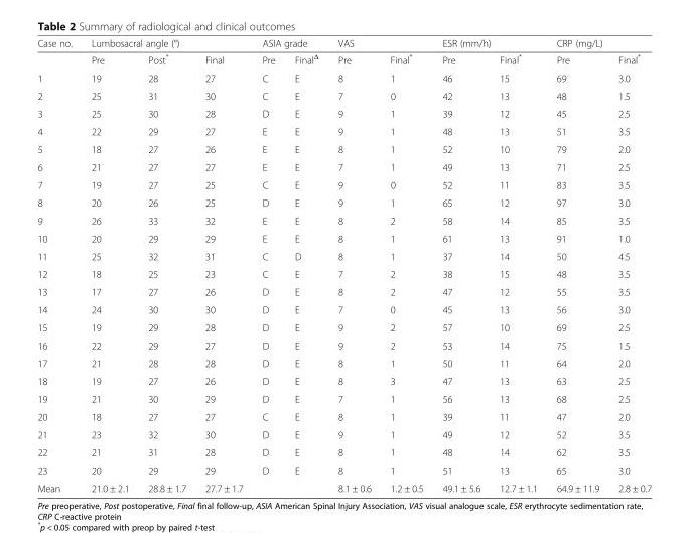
<table><thead><tr><td rowspan="2">Case no.</td><td colspan="3">Lumbosacral angle (°)</td><td colspan="2">ASIA grade</td><td colspan="2">VAS</td><td colspan="2">ESR (mm/h)</td><td colspan="2">CRP (mg/L)</td></tr><tr><td>Pre</td><td>Post*</td><td>Final</td><td>Pre</td><td>Final<sup>Δ</sup></td><td>Pre</td><td>Final*</td><td>Pre</td><td>Final*</td><td>Pre</td><td>Final*</td></tr></thead><tbody><tr><td>1</td><td>19</td><td>28</td><td>27</td><td>C</td><td>E</td><td>8</td><td>1</td><td>46</td><td>15</td><td>69</td><td>3.0</td></tr><tr><td>2</td><td>25</td><td>31</td><td>30</td><td>C</td><td>E</td><td>7</td><td>0</td><td>42</td><td>13</td><td>48</td><td>1.5</td></tr><tr><td>3</td><td>25</td><td>30</td><td>28</td><td>D</td><td>E</td><td>9</td><td>1</td><td>39</td><td>12</td><td>45</td><td>2.5</td></tr><tr><td>4</td><td>22</td><td>29</td><td>27</td><td>E</td><td>E</td><td>9</td><td>1</td><td>48</td><td>13</td><td>51</td><td>3.5</td></tr><tr><td>5</td><td>18</td><td>27</td><td>26</td><td>E</td><td>E</td><td>8</td><td>1</td><td>52</td><td>10</td><td>79</td><td>2.0</td></tr><tr><td>6</td><td>21</td><td>27</td><td>27</td><td>E</td><td>E</td><td>7</td><td>1</td><td>49</td><td>13</td><td>71</td><td>2.5</td></tr><tr><td>7</td><td>19</td><td>27</td><td>25</td><td>C</td><td>E</td><td>9</td><td>0</td><td>52</td><td>11</td><td>83</td><td>3.5</td></tr><tr><td>8</td><td>20</td><td>26</td><td>25</td><td>D</td><td>E</td><td>9</td><td>1</td><td>65</td><td>12</td><td>97</td><td>3.0</td></tr><tr><td>9</td><td>26</td><td>33</td><td>32</td><td>E</td><td>E</td><td>8</td><td>2</td><td>58</td><td>14</td><td>85</td><td>3.5</td></tr><tr><td>10</td><td>20</td><td>29</td><td>29</td><td>E</td><td>E</td><td>8</td><td>1</td><td>61</td><td>13</td><td>91</td><td>1.0</td></tr><tr><td>11</td><td>25</td><td>32</td><td>31</td><td>C</td><td>D</td><td>8</td><td>1</td><td>37</td><td>14</td><td>50</td><td>4.5</td></tr><tr><td>12</td><td>18</td><td>25</td><td>23</td><td>C</td><td>E</td><td>7</td><td>2</td><td>38</td><td>15</td><td>48</td><td>3.5</td></tr><tr><td>13</td><td>17</td><td>27</td><td>26</td><td>D</td><td>E</td><td>8</td><td>2</td><td>47</td><td>12</td><td>55</td><td>3.5</td></tr><tr><td>14</td><td>24</td><td>30</td><td>30</td><td>D</td><td>E</td><td>7</td><td>0</td><td>45</td><td>13</td><td>56</td><td>3.0</td></tr><tr><td>15</td><td>19</td><td>29</td><td>28</td><td>D</td><td>E</td><td>9</td><td>2</td><td>57</td><td>10</td><td>69</td><td>2.5</td></tr><tr><td>16</td><td>22</td><td>29</td><td>27</td><td>D</td><td>E</td><td>9</td><td>2</td><td>53</td><td>14</td><td>75</td><td>1.5</td></tr><tr><td>17</td><td>21</td><td>28</td><td>28</td><td>D</td><td>E</td><td>8</td><td>1</td><td>50</td><td>11</td><td>64</td><td>2.0</td></tr><tr><td>18</td><td>19</td><td>27</td><td>26</td><td>D</td><td>E</td><td>8</td><td>3</td><td>47</td><td>13</td><td>63</td><td>2.5</td></tr><tr><td>19</td><td>21</td><td>30</td><td>29</td><td>D</td><td>E</td><td>7</td><td>1</td><td>56</td><td>13</td><td>68</td><td>2.5</td></tr><tr><td>20</td><td>18</td><td>27</td><td>27</td><td>C</td><td>E</td><td>8</td><td>1</td><td>39</td><td>11</td><td>47</td><td>2.0</td></tr><tr><td>21</td><td>23</td><td>32</td><td>30</td><td>D</td><td>E</td><td>9</td><td>1</td><td>49</td><td>12</td><td>52</td><td>3.5</td></tr><tr><td>22</td><td>21</td><td>31</td><td>28</td><td>D</td><td>E</td><td>8</td><td>1</td><td>48</td><td>14</td><td>62</td><td>3.5</td></tr><tr><td>23</td><td>20</td><td>29</td><td>29</td><td>D</td><td>E</td><td>8</td><td>1</td><td>51</td><td>13</td><td>65</td><td>3.0</td></tr><tr><td>Mean</td><td>21.0 ± 2.1</td><td>28.8 ± 1.7</td><td>27.7 ± 1.7</td><td></td><td></td><td>8.1 ± 0.6</td><td>1.2 ± 0.5</td><td>49.1 ± 5.6</td><td>12.7 ± 1.1</td><td>64.9 ± 11.9</td><td>2.8 ± 0.7</td></tr></tbody></table>